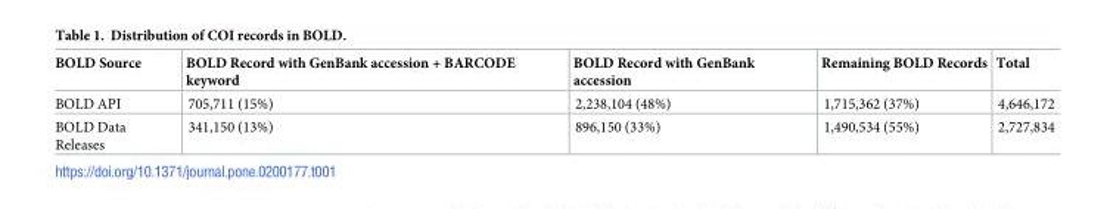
<table><thead><tr><td>BOLD Source</td><td>BOLD Record with GenBank accession + BARCODE keyword</td><td>BOLD Record with GenBank accession</td><td>Remaining BOLD Records</td><td>Total</td></tr></thead><tbody><tr><td>BOLD API</td><td>705,711 (15%)</td><td>2,238,104 (48%)</td><td>1,715,362 (37%)</td><td>4,646,172</td></tr><tr><td>BOLD Data Releases</td><td>341,150 (13%)</td><td>896,150 (33%)</td><td>1,490,534 (55%)</td><td>2,727,834</td></tr></tbody></table>